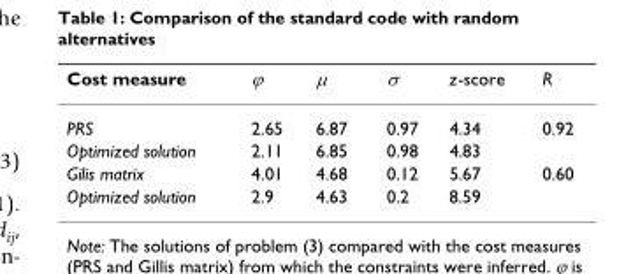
<table><thead><tr><td>Cost measure</td><td>ϕ</td><td>μ</td><td>σ</td><td>z-score</td><td>R</td></tr></thead><tbody><tr><td>PRS</td><td>2.65</td><td>6.87</td><td>0.97</td><td>4.34</td><td>0.92</td></tr><tr><td>Optimized solution</td><td>2.11</td><td>6.85</td><td>0.98</td><td>4.83</td><td></td></tr><tr><td>Gilis matrix</td><td>4.01</td><td>4.68</td><td>0.12</td><td>5.67</td><td>0.60</td></tr><tr><td>Optimized solution</td><td>2.9</td><td>4.63</td><td>0.2</td><td>8.59</td><td></td></tr></tbody></table>